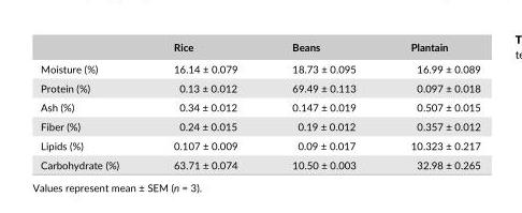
<table><thead><tr><td></td><td>Rice</td><td>Beans</td><td>Plantain</td></tr></thead><tbody><tr><td>Moisture (%)</td><td>16.14 ± 0.079</td><td>18.73 ± 0.095</td><td>16.99 ± 0.089</td></tr><tr><td>Protein (%)</td><td>0.13 ± 0.012</td><td>69.49 ± 0.113</td><td>0.097 ± 0.018</td></tr><tr><td>Ash (%)</td><td>0.34 ± 0.012</td><td>0.147 ± 0.019</td><td>0.507 ± 0.015</td></tr><tr><td>Fiber (%)</td><td>0.24 ± 0.015</td><td>0.19 ± 0.012</td><td>0.357 ± 0.012</td></tr><tr><td>Lipids (%)</td><td>0.107 ± 0.009</td><td>0.09 ± 0.017</td><td>10.323 ± 0.217</td></tr><tr><td>Carbohydrate (%)</td><td>63.71 ± 0.074</td><td>10.50 ± 0.003</td><td>32.98 ± 0.265</td></tr></tbody></table>